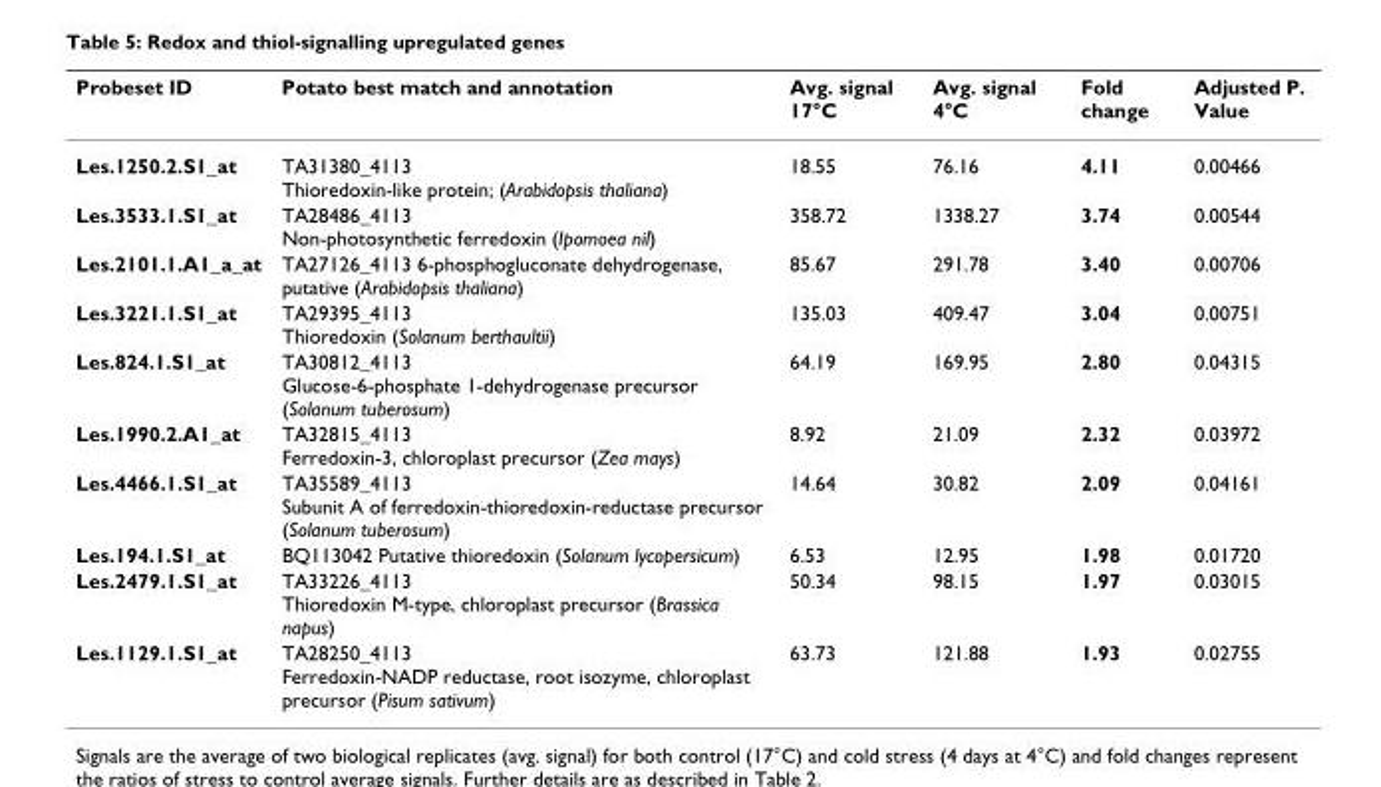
<table><thead><tr><td>Probeset ID</td><td>Potato best match and annotation</td><td>Avg. signal 17°C</td><td>Avg. signal 4°C</td><td>Fold change</td><td>Adjusted P. Value</td></tr></thead><tbody><tr><td>Les.1250.2.S1_at</td><td>TA31380_4113 Thioredoxin-like protein; (Arabidopsis thaliana)</td><td>18.55</td><td>76.16</td><td>4.11</td><td>0.00466</td></tr><tr><td>Les.3533.1.S1_at</td><td>TA28486_4113 Non-photosynthetic ferredoxin (Ipomoea nil)</td><td>358.72</td><td>1338.27</td><td>3.74</td><td>0.00544</td></tr><tr><td>Les.2101.1.A1_a_at</td><td>TA27126_4113 6-phosphogluconate dehydrogenase, putative (Arabidopsis thaliana)</td><td>85.67</td><td>291.78</td><td>3.40</td><td>0.00706</td></tr><tr><td>Les.3221.1.S1_at</td><td>TA29395_4113 Thioredoxin (Solanum berthaultii)</td><td>135.03</td><td>409.47</td><td>3.04</td><td>0.00751</td></tr><tr><td>Les.824.1.S1_at</td><td>TA30812_4113 Glucose-6-phosphate 1-dehydrogenase precursor (Solanum tuberosum)</td><td>64.19</td><td>169.95</td><td>2.80</td><td>0.04315</td></tr><tr><td>Les.1990.2.A1_at</td><td>TA32815_4113 Ferredoxin-3, chloroplast precursor (Zea mays)</td><td>8.92</td><td>21.09</td><td>2.32</td><td>0.03972</td></tr><tr><td>Les.4466.1.S1_at</td><td>TA35589_4113 Subunit A of ferredoxin-thioredoxin-reductase precursor (Solanum tuberosum)</td><td>14.64</td><td>30.82</td><td>2.09</td><td>0.04161</td></tr><tr><td>Les.194.1.S1_at</td><td>BQ113042 Putative thioredoxin (Solanum lycopersicum)</td><td>6.53</td><td>12.95</td><td>1.98</td><td>0.01720</td></tr><tr><td>Les.2479.1.S1_at</td><td>TA33226_4113 Thioredoxin M-type, chloroplast precursor (Brassica napus)</td><td>50.34</td><td>98.15</td><td>1.97</td><td>0.03015</td></tr><tr><td>Les.1129.1.S1_at</td><td>TA28250_4113 Ferredoxin-NADP reductase, root isozyme, chloroplast precursor (Pisum sativum)</td><td>63.73</td><td>121.88</td><td>1.93</td><td>0.02755</td></tr></tbody></table>